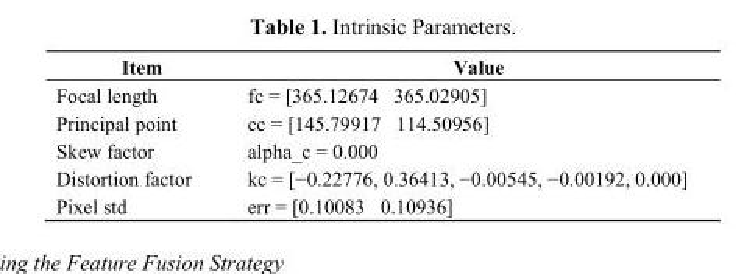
<table><thead><tr><td>Item</td><td>Value</td></tr></thead><tbody><tr><td>Focal length</td><td>fc = [365.12674 365.02905]</td></tr><tr><td>Principal point</td><td>cc = [145.79917 114.50956]</td></tr><tr><td>Skew factor</td><td>alpha_c = 0.000</td></tr><tr><td>Distortion factor</td><td>kc = [−0.22776, 0.36413, −0.00545, −0.00192, 0.000]</td></tr><tr><td>Pixel std</td><td>err = [0.10083 0.10936]</td></tr></tbody></table>